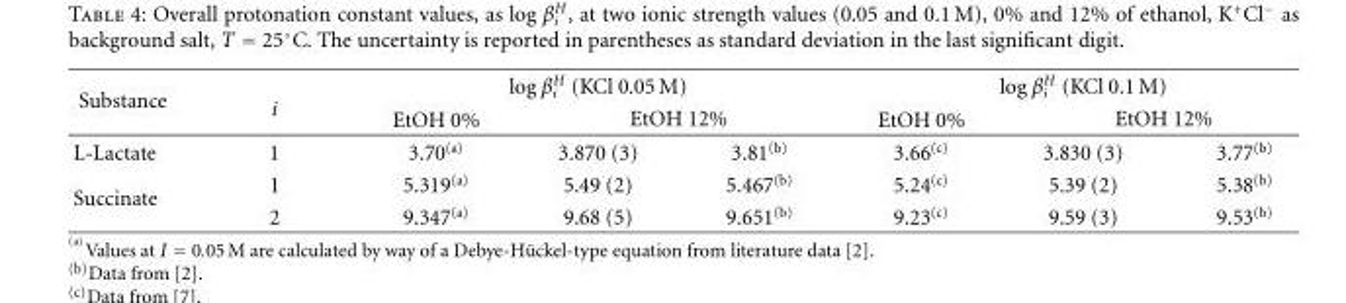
<table><thead><tr><td rowspan="3">Substance L-Lactate</td><td rowspan="3">i 1</td><td colspan="3">log βH i (KCl 0.05 M)</td><td colspan="3">log βH i (KCl 0.1 M)</td></tr><tr><td rowspan="2">EtOH 0% 3.70<sup>(a)</sup></td><td colspan="2">EtOH 12%</td><td rowspan="2">EtOH 0% 3.66<sup>(c)</sup></td><td colspan="2">EtOH 12%</td></tr><tr><td>3.870 (3)</td><td>3.81<sup>(b)</sup></td><td>3.830 (3)</td><td>3.77<sup>(b)</sup></td></tr></thead><tbody><tr><td rowspan="2">Succinate</td><td>1</td><td>5.319<sup>(a)</sup></td><td>5.49 (2)</td><td>5.467<sup>(b)</sup></td><td>5.24<sup>(c)</sup></td><td>5.39 (2)</td><td>5.38<sup>(b)</sup></td></tr><tr><td>2</td><td>9.347<sup>(a)</sup></td><td>9.68 (5)</td><td>9.651<sup>(b)</sup></td><td>9.23<sup>(c)</sup></td><td>9.59 (3)</td><td>9.53<sup>(b)</sup></td></tr></tbody></table>